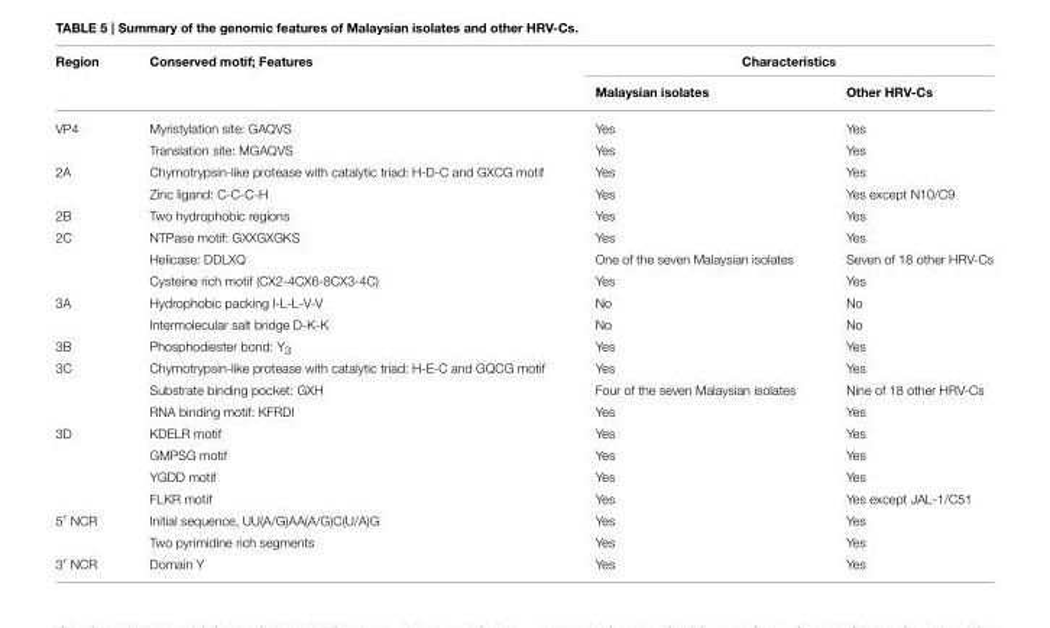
<table><thead><tr><td rowspan="2">Region</td><td rowspan="2">Conserved motif; Features</td><td colspan="2">Characteristics</td></tr><tr><td>Malaysian isolates</td><td>Other HRV-Cs</td></tr></thead><tbody><tr><td rowspan="2">VP4</td><td>Myristylation site: GAQVS</td><td>Yes</td><td>Yes</td></tr><tr><td>Translation site: MGAQVS</td><td>Yes</td><td>Yes</td></tr><tr><td rowspan="2">2A</td><td>Chymotrypsin-like protease with catalytic triad: H-D-C and GXCG motif</td><td>Yes</td><td>Yes</td></tr><tr><td>Zinc ligand: C-C-C-H</td><td>Yes</td><td>Yes except N10/C9</td></tr><tr><td>2B</td><td>Two hydrophobic regions</td><td>Yes</td><td>Yes</td></tr><tr><td rowspan="3">2C</td><td>NTPase motif: GXXGXGKS</td><td>Yes</td><td>Yes</td></tr><tr><td>Helicase: DDLXQ</td><td>One of the seven Malaysian isolates</td><td>Seven of 18 other HRV-Cs</td></tr><tr><td>Cysteine rich motif (CX2-4CX6-8CX3-4C)</td><td>Yes</td><td>Yes</td></tr><tr><td rowspan="2">3A</td><td>Hydrophobic packing I-L-L-V-V</td><td>No</td><td>No</td></tr><tr><td>Intermolecular salt bridge D-K-K</td><td>No</td><td>No</td></tr><tr><td>3B</td><td>Phosphodiester bond: Y<sub>3</sub></td><td>Yes</td><td>Yes</td></tr><tr><td rowspan="3">3C</td><td>Chymotrypsin-like protease with catalytic triad: H-E-C and GQCG motif</td><td>Yes</td><td>Yes</td></tr><tr><td>Substrate binding pocket: GXH</td><td>Four of the seven Malaysian isolates</td><td>Nine of 18 other HRV-Cs</td></tr><tr><td>RNA binding motif: KFRDI</td><td>Yes</td><td>Yes</td></tr><tr><td rowspan="4">3D</td><td>KDELR motif</td><td>Yes</td><td>Yes</td></tr><tr><td>GMPSG motif</td><td>Yes</td><td>Yes</td></tr><tr><td>YGDD motif</td><td>Yes</td><td>Yes</td></tr><tr><td>FLKR motif</td><td>Yes</td><td>Yes except JAL-1/C51</td></tr><tr><td rowspan="2">5′ NCR</td><td>Initial sequence, UU(A/G)AA(A/G)C(U/A)G</td><td>Yes</td><td>Yes</td></tr><tr><td>Two pyrimidine rich segments</td><td>Yes</td><td>Yes</td></tr><tr><td>3′ NCR</td><td>Domain Y</td><td>Yes</td><td>Yes</td></tr></tbody></table>